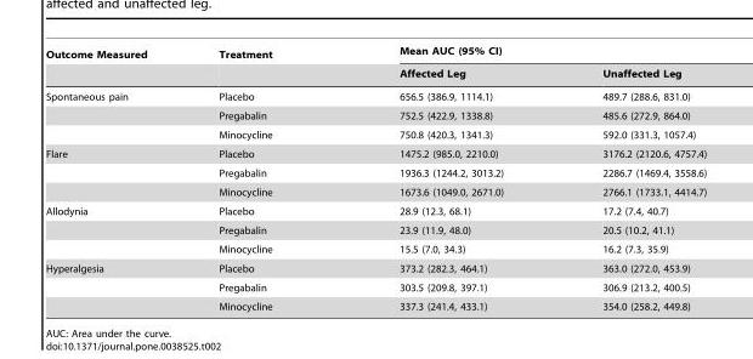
<table><thead><tr><td rowspan="2">Outcome Measured</td><td rowspan="2">Treatment</td><td colspan="2">Mean AUC (95% CI)</td></tr><tr><td>Affected Leg</td><td>Unaffected Leg</td></tr></thead><tbody><tr><td rowspan="3">Spontaneous pain</td><td>Placebo</td><td>656.5 (386.9, 1114.1)</td><td>489.7 (288.6, 831.0)</td></tr><tr><td>Pregabalin</td><td>752.5 (422.9, 1338.8)</td><td>485.6 (272.9, 864.0)</td></tr><tr><td>Minocycline</td><td>750.8 (420.3, 1341.3)</td><td>592.0 (331.3, 1057.4)</td></tr><tr><td rowspan="3">Flare</td><td>Placebo</td><td>1475.2 (985.0, 2210.0)</td><td>3176.2 (2120.6, 4757.4)</td></tr><tr><td>Pregabalin</td><td>1936.3 (1244.2, 3013.2)</td><td>2286.7 (1469.4, 3558.6)</td></tr><tr><td>Minocycline</td><td>1673.6 (1049.0, 2671.0)</td><td>2766.1 (1733.1, 4414.7)</td></tr><tr><td rowspan="3">Allodynia</td><td>Placebo</td><td>28.9 (12.3, 68.1)</td><td>17.2 (7.4, 40.7)</td></tr><tr><td>Pregabalin</td><td>23.9 (11.9, 48.0)</td><td>20.5 (10.2, 41.1)</td></tr><tr><td>Minocycline</td><td>15.5 (7.0, 34.3)</td><td>16.2 (7.3, 35.9)</td></tr><tr><td rowspan="3">Hyperalgesia</td><td>Placebo</td><td>373.2 (282.3, 464.1)</td><td>363.0 (272.0, 453.9)</td></tr><tr><td>Pregabalin</td><td>303.5 (209.8, 397.1)</td><td>306.9 (213.2, 400.5)</td></tr><tr><td>Minocycline</td><td>337.3 (241.4, 433.1)</td><td>354.0 (258.2, 449.8)</td></tr></tbody></table>